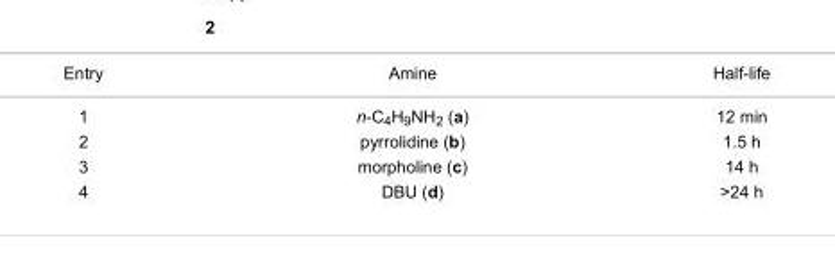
<table><tbody><tr><td>Entry</td><td>Amine</td><td>Half-life</td></tr><tr><td>1</td><td>n-C<sub>4</sub>H<sub>9</sub>NH<sub>2</sub> (a)</td><td>12 min</td></tr><tr><td>2</td><td>pyrrolidine (b)</td><td>1.5 h</td></tr><tr><td>3</td><td>morpholine (c)</td><td>14 h</td></tr><tr><td>4</td><td>DBU (d)</td><td>&gt;24 h</td></tr></tbody></table>